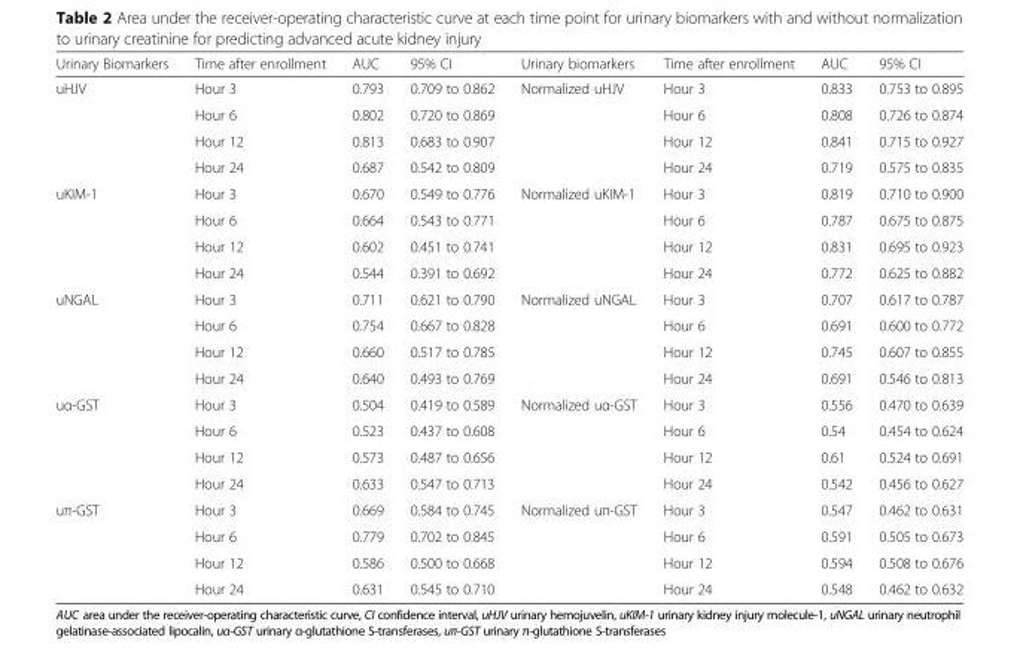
<table><thead><tr><td>Urinary Biomarkers</td><td>Time after enrollment</td><td>AUC</td><td>95% CI</td><td>Urinary biomarkers</td><td>Time after enrollment</td><td>AUC</td><td>95% CI</td></tr></thead><tbody><tr><td rowspan="4">uHJV</td><td>Hour 3</td><td>0.793</td><td>0.709 to 0.862</td><td rowspan="4">Normalized uHJV</td><td>Hour 3</td><td>0.833</td><td>0.753 to 0.895</td></tr><tr><td>Hour 6</td><td>0.802</td><td>0.720 to 0.869</td><td>Hour 6</td><td>0.808</td><td>0.726 to 0.874</td></tr><tr><td>Hour 12</td><td>0.813</td><td>0.683 to 0.907</td><td>Hour 12</td><td>0.841</td><td>0.715 to 0.927</td></tr><tr><td>Hour 24</td><td>0.687</td><td>0.542 to 0.809</td><td>Hour 24</td><td>0.719</td><td>0.575 to 0.835</td></tr><tr><td rowspan="4">uKIM-1</td><td>Hour 3</td><td>0.670</td><td>0.549 to 0.776</td><td rowspan="4">Normalized uKIM-1</td><td>Hour 3</td><td>0.819</td><td>0.710 to 0.900</td></tr><tr><td>Hour 6</td><td>0.664</td><td>0.543 to 0.771</td><td>Hour 6</td><td>0.787</td><td>0.675 to 0.875</td></tr><tr><td>Hour 12</td><td>0.602</td><td>0.451 to 0.741</td><td>Hour 12</td><td>0.831</td><td>0.695 to 0.923</td></tr><tr><td>Hour 24</td><td>0.544</td><td>0.391 to 0.692</td><td>Hour 24</td><td>0.772</td><td>0.625 to 0.882</td></tr><tr><td rowspan="4">uNGAL</td><td>Hour 3</td><td>0.711</td><td>0.621 to 0.790</td><td rowspan="4">Normalized uNGAL</td><td>Hour 3</td><td>0.707</td><td>0.617 to 0.787</td></tr><tr><td>Hour 6</td><td>0.754</td><td>0.667 to 0.828</td><td>Hour 6</td><td>0.691</td><td>0.600 to 0.772</td></tr><tr><td>Hour 12</td><td>0.660</td><td>0.517 to 0.785</td><td>Hour 12</td><td>0.745</td><td>0.607 to 0.855</td></tr><tr><td>Hour 24</td><td>0.640</td><td>0.493 to 0.769</td><td>Hour 24</td><td>0.691</td><td>0.546 to 0.813</td></tr><tr><td rowspan="4">uα-GST</td><td>Hour 3</td><td>0.504</td><td>0.419 to 0.589</td><td rowspan="4">Normalized uα-GST</td><td>Hour 3</td><td>0.556</td><td>0.470 to 0.639</td></tr><tr><td>Hour 6</td><td>0.523</td><td>0.437 to 0.608</td><td>Hour 6</td><td>0.54</td><td>0.454 to 0.624</td></tr><tr><td>Hour 12</td><td>0.573</td><td>0.487 to 0.656</td><td>Hour 12</td><td>0.61</td><td>0.524 to 0.691</td></tr><tr><td>Hour 24</td><td>0.633</td><td>0.547 to 0.713</td><td>Hour 24</td><td>0.542</td><td>0.456 to 0.627</td></tr><tr><td rowspan="4">uπ-GST</td><td>Hour 3</td><td>0.669</td><td>0.584 to 0.745</td><td rowspan="4">Normalized uπ-GST</td><td>Hour 3</td><td>0.547</td><td>0.462 to 0.631</td></tr><tr><td>Hour 6</td><td>0.779</td><td>0.702 to 0.845</td><td>Hour 6</td><td>0.591</td><td>0.505 to 0.673</td></tr><tr><td>Hour 12</td><td>0.586</td><td>0.500 to 0.668</td><td>Hour 12</td><td>0.594</td><td>0.508 to 0.676</td></tr><tr><td>Hour 24</td><td>0.631</td><td>0.545 to 0.710</td><td>Hour 24</td><td>0.548</td><td>0.462 to 0.632</td></tr></tbody></table>